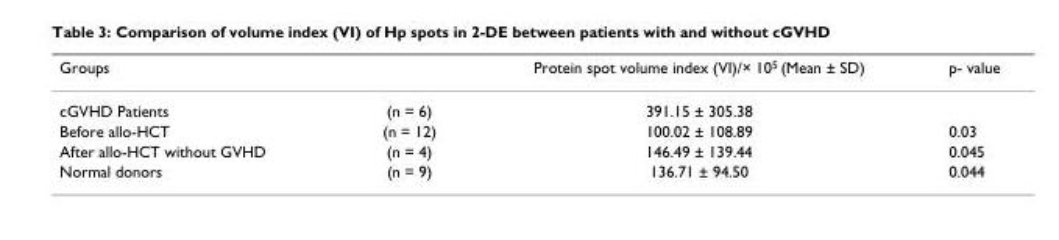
<table><thead><tr><td>Groups</td><td></td><td>Protein spot volume index (VI)/× 10<sup>5</sup> (Mean ± SD)</td><td>p- value</td></tr></thead><tbody><tr><td>cGVHD Patients</td><td>(n = 6)</td><td>391.15 ± 305.38</td><td></td></tr><tr><td>Before allo-HCT</td><td>(n = 12)</td><td>100.02 ± 108.89</td><td>0.03</td></tr><tr><td>After allo-HCT without GVHD</td><td>(n = 4)</td><td>146.49 ± 139.44</td><td>0.045</td></tr><tr><td>Normal donors</td><td>(n = 9)</td><td>136.71 ± 94.50</td><td>0.044</td></tr></tbody></table>